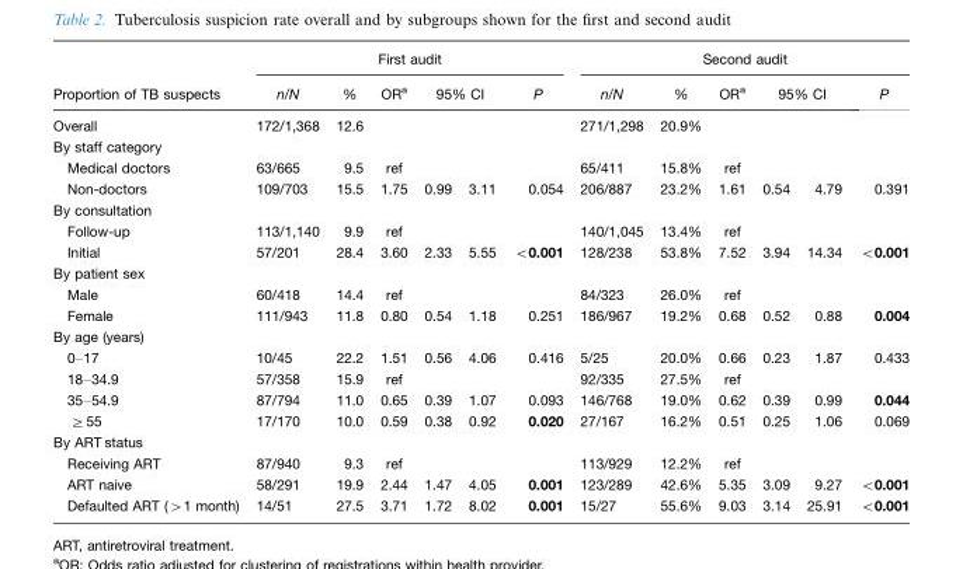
<table><thead><tr><td rowspan="3">Proportion of TB suspects Overall</td><td colspan="6">First audit</td><td colspan="6">Second audit</td></tr><tr><td rowspan="2">n/N 172/1,368</td><td rowspan="2">% 12.6</td><td rowspan="2">OR<sup>a</sup></td><td colspan="2">95% CI</td><td rowspan="2">P</td><td rowspan="2">n/N 271/1,298</td><td rowspan="2">% 20.9%</td><td rowspan="2">OR<sup>a</sup></td><td colspan="2">95% CI</td><td rowspan="2">P</td></tr><tr><td></td><td></td><td></td><td></td></tr></thead><tbody><tr><td colspan="13">By staff category</td></tr><tr><td>Medical doctors</td><td>63/665</td><td>9.5</td><td>ref</td><td></td><td></td><td></td><td>65/411</td><td>15.8%</td><td>ref</td><td></td><td></td><td></td></tr><tr><td>Non-doctors</td><td>109/703</td><td>15.5</td><td>1.75</td><td>0.99</td><td>3.11</td><td>0.054</td><td>206/887</td><td>23.2%</td><td>1.61</td><td>0.54</td><td>4.79</td><td>0.391</td></tr><tr><td colspan="13">By consultation</td></tr><tr><td>Follow-up</td><td>113/1,140</td><td>9.9</td><td>ref</td><td></td><td></td><td></td><td>140/1,045</td><td>13.4%</td><td>ref</td><td></td><td></td><td></td></tr><tr><td>Initial</td><td>57/201</td><td>28.4</td><td>3.60</td><td>2.33</td><td>5.55</td><td>&lt;0.001</td><td>128/238</td><td>53.8%</td><td>7.52</td><td>3.94</td><td>14.34</td><td>&lt;0.001</td></tr><tr><td colspan="13">By patient sex</td></tr><tr><td>Male</td><td>60/418</td><td>14.4</td><td>ref</td><td></td><td></td><td></td><td>84/323</td><td>26.0%</td><td>ref</td><td></td><td></td><td></td></tr><tr><td>Female</td><td>111/943</td><td>11.8</td><td>0.80</td><td>0.54</td><td>1.18</td><td>0.251</td><td>186/967</td><td>19.2%</td><td>0.68</td><td>0.52</td><td>0.88</td><td>0.004</td></tr><tr><td colspan="13">By age (years)</td></tr><tr><td>0–17</td><td>10/45</td><td>22.2</td><td>1.51</td><td>0.56</td><td>4.06</td><td>0.416</td><td>5/25</td><td>20.0%</td><td>0.66</td><td>0.23</td><td>1.87</td><td>0.433</td></tr><tr><td>18–34.9</td><td>57/358</td><td>15.9</td><td>ref</td><td></td><td></td><td></td><td>92/335</td><td>27.5%</td><td>ref</td><td></td><td></td><td></td></tr><tr><td>35–54.9</td><td>87/794</td><td>11.0</td><td>0.65</td><td>0.39</td><td>1.07</td><td>0.093</td><td>146/768</td><td>19.0%</td><td>0.62</td><td>0.39</td><td>0.99</td><td>0.044</td></tr><tr><td>≥55</td><td>17/170</td><td>10.0</td><td>0.59</td><td>0.38</td><td>0.92</td><td>0.020</td><td>27/167</td><td>16.2%</td><td>0.51</td><td>0.25</td><td>1.06</td><td>0.069</td></tr><tr><td colspan="13">By ART status</td></tr><tr><td>Receiving ART</td><td>87/940</td><td>9.3</td><td>ref</td><td></td><td></td><td></td><td>113/929</td><td>12.2%</td><td>ref</td><td></td><td></td><td></td></tr><tr><td>ART naive</td><td>58/291</td><td>19.9</td><td>2.44</td><td>1.47</td><td>4.05</td><td>0.001</td><td>123/289</td><td>42.6%</td><td>5.35</td><td>3.09</td><td>9.27</td><td>&lt;0.001</td></tr><tr><td>Defaulted ART (&gt;1 month)</td><td>14/51</td><td>27.5</td><td>3.71</td><td>1.72</td><td>8.02</td><td>0.001</td><td>15/27</td><td>55.6%</td><td>9.03</td><td>3.14</td><td>25.91</td><td>&lt;0.001</td></tr></tbody></table>